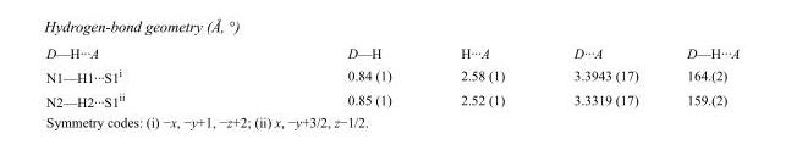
<table><tbody><tr><td>D—H···A</td><td>D—H</td><td>H···A</td><td>D···A</td><td>D—H···A</td></tr><tr><td>N1—H1···S1<sup>i</sup></td><td>0.84 (1)</td><td>2.58 (1)</td><td>3.3943 (17)</td><td>164.(2)</td></tr><tr><td>N2—H2···S1<sup>ii</sup></td><td>0.85 (1)</td><td>2.52 (1)</td><td>3.3319 (17)</td><td>159.(2)</td></tr></tbody></table>